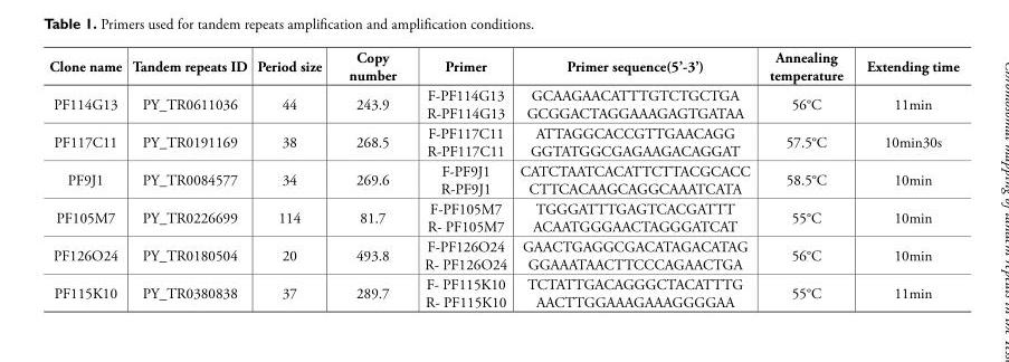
<table><thead><tr><td>Clone name</td><td>Tandem repeats ID</td><td>Period size</td><td>Copy number</td><td>Primer</td><td>Primer sequence(5’-3’)</td><td>Annealing temperature</td><td>Extending time</td></tr></thead><tbody><tr><td>PF114G13</td><td>PY_TR0611036</td><td>44</td><td>243.9</td><td>F-PF114G13 R-PF114G13</td><td>GCAAGAACATTTGTCTGCTGA GCGGACTAGGAAAGAGTGATAA</td><td>56°C</td><td>11min</td></tr><tr><td>PF117C11</td><td>PY_TR0191169</td><td>38</td><td>268.5</td><td>F-PF117C11 R-PF117C11</td><td>ATTAGGCACCGTTGAACAGG GGTATGGCGAGAAGACAGGAT</td><td>57.5°C</td><td>10min30s</td></tr><tr><td>PF9J1</td><td>PY_TR0084577</td><td>34</td><td>269.6</td><td>F-PF9J1 R-PF9J1</td><td>CATCTAATCACATTCTTACGCACC CTTCACAAGCAGGCAAATCATA</td><td>58.5°C</td><td>10min</td></tr><tr><td>PF105M7</td><td>PY_TR0226699</td><td>114</td><td>81.7</td><td>F-PF105M7 R- PF105M7</td><td>TGGGATTTGAGTCACGATTT ACAATGGGAACTAGGGATCAT</td><td>55°C</td><td>10min</td></tr><tr><td>PF126O24</td><td>PY_TR0180504</td><td>20</td><td>493.8</td><td>F-PF126O24 R- PF126O24</td><td>GAACTGAGGCGACATAGACATAG GGAAATAACTTCCCAGAACTGA</td><td>56°C</td><td>10min</td></tr><tr><td>PF115K10</td><td>PY_TR0380838</td><td>37</td><td>289.7</td><td>F- PF115K10 R- PF115K10</td><td>TCTATTGACAGGGCTACATTTG AACTTGGAAAGAAAGGGGAA</td><td>55°C</td><td>11min</td></tr></tbody></table>